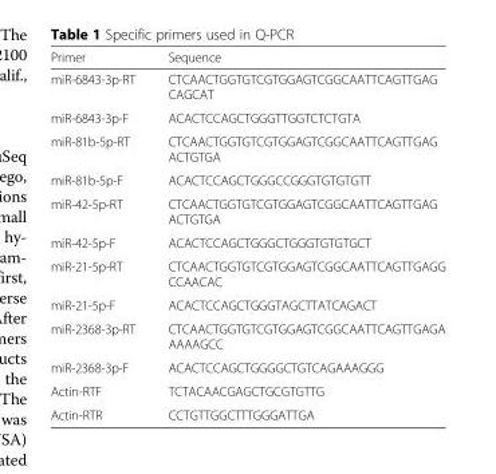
<table><thead><tr><td>Primer</td><td>Sequence</td></tr></thead><tbody><tr><td>miR-6843-3p-RT</td><td>CTCAACTGGTGTCGTGGAGTCGGCAATTCAGTTGAG CAGCAT</td></tr><tr><td>miR-6843-3p-F</td><td>ACACTCCAGCTGGGTTGGTCTCTGTA</td></tr><tr><td>miR-81b-5p-RT</td><td>CTCAACTGGTGTCGTGGAGTCGGCAATTCAGTTGAG ACTGTGA</td></tr><tr><td>miR-81b-5p-F</td><td>ACACTCCAGCTGGGCCGGGTGTGTGTT</td></tr><tr><td>miR-42-5p-RT</td><td>CTCAACTGGTGTCGTGGAGTCGGCAATTCAGTTGAG ACTGTGA</td></tr><tr><td>miR-42-5p-F</td><td>ACACTCCAGCTGGGCTGGGTGTGTGCT</td></tr><tr><td>miR-21-5p-RT</td><td>CTCAACTGGTGTCGTGGAGTCGGCAATTCAGTTGAGG CCAACAC</td></tr><tr><td>miR-21-5p-F</td><td>ACACTCCAGCTGGGTAGCTTATCAGACT</td></tr><tr><td>miR-2368-3p-RT</td><td>CTCAACTGGTGTCGTGGAGTCGGCAATTCAGTTGAGA AAAAGCC</td></tr><tr><td>miR-2368-3p-F</td><td>ACACTCCAGCTGGGGCTGTCAGAAAGGG</td></tr><tr><td>Actin-RTF</td><td>TCTACAACGAGCTGCGTGTTG</td></tr><tr><td>Actin-RTR</td><td>CCTGTTGGCTTTGGGATTGA</td></tr></tbody></table>